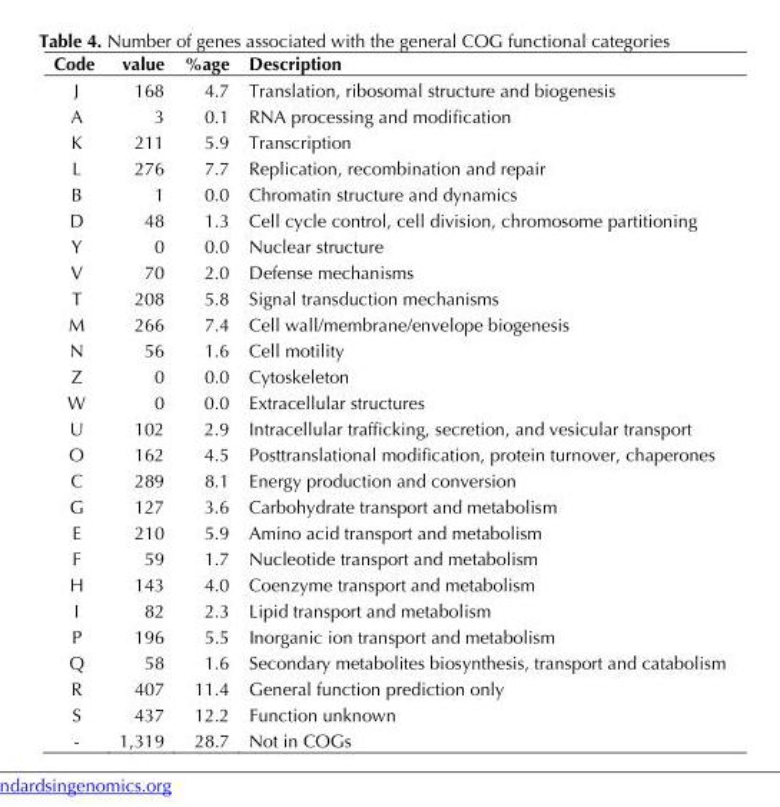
<table><thead><tr><td>Code</td><td>value</td><td>%age</td><td>Description</td></tr></thead><tbody><tr><td>J</td><td>168</td><td>4.7</td><td>Translation, ribosomal structure and biogenesis</td></tr><tr><td>A</td><td>3</td><td>0.1</td><td>RNA processing and modification</td></tr><tr><td>K</td><td>211</td><td>5.9</td><td>Transcription</td></tr><tr><td>L</td><td>276</td><td>7.7</td><td>Replication, recombination and repair</td></tr><tr><td>B</td><td>1</td><td>0.0</td><td>Chromatin structure and dynamics</td></tr><tr><td>D</td><td>48</td><td>1.3</td><td>Cell cycle control, cell division, chromosome partitioning</td></tr><tr><td>Y</td><td>0</td><td>0.0</td><td>Nuclear structure</td></tr><tr><td>V</td><td>70</td><td>2.0</td><td>Defense mechanisms</td></tr><tr><td>T</td><td>208</td><td>5.8</td><td>Signal transduction mechanisms</td></tr><tr><td>M</td><td>266</td><td>7.4</td><td>Cell wall/membrane/envelope biogenesis</td></tr><tr><td>N</td><td>56</td><td>1.6</td><td>Cell motility</td></tr><tr><td>Z</td><td>0</td><td>0.0</td><td>Cytoskeleton</td></tr><tr><td>W</td><td>0</td><td>0.0</td><td>Extracellular structures</td></tr><tr><td>U</td><td>102</td><td>2.9</td><td>Intracellular trafficking, secretion, and vesicular transport</td></tr><tr><td>O</td><td>162</td><td>4.5</td><td>Posttranslational modification, protein turnover, chaperones</td></tr><tr><td>C</td><td>289</td><td>8.1</td><td>Energy production and conversion</td></tr><tr><td>G</td><td>127</td><td>3.6</td><td>Carbohydrate transport and metabolism</td></tr><tr><td>E</td><td>210</td><td>5.9</td><td>Amino acid transport and metabolism</td></tr><tr><td>F</td><td>59</td><td>1.7</td><td>Nucleotide transport and metabolism</td></tr><tr><td>H</td><td>143</td><td>4.0</td><td>Coenzyme transport and metabolism</td></tr><tr><td>I</td><td>82</td><td>2.3</td><td>Lipid transport and metabolism</td></tr><tr><td>P</td><td>196</td><td>5.5</td><td>Inorganic ion transport and metabolism</td></tr><tr><td>Q</td><td>58</td><td>1.6</td><td>Secondary metabolites biosynthesis, transport and catabolism</td></tr><tr><td>R</td><td>407</td><td>11.4</td><td>General function prediction only</td></tr><tr><td>S</td><td>437</td><td>12.2</td><td>Function unknown</td></tr><tr><td>-</td><td>1,319</td><td>28.7</td><td>Not in COGs</td></tr></tbody></table>